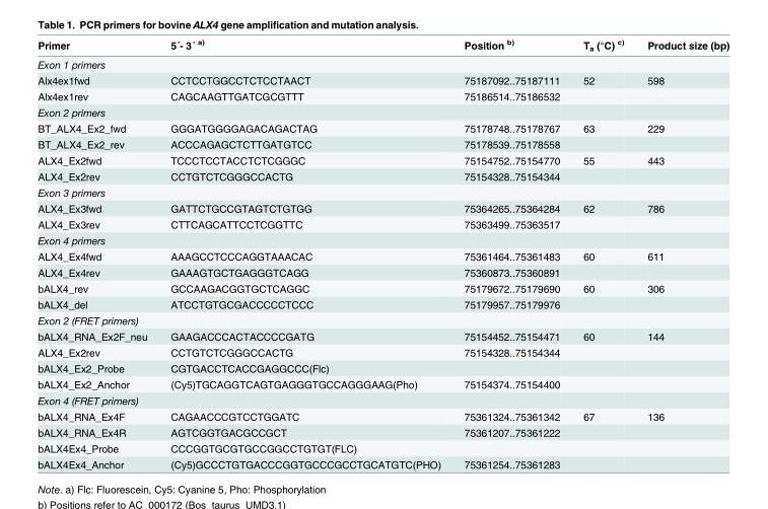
<table><thead><tr><td>Primer</td><td>5´- 3´ <sup>a)</sup></td><td>Position <sup>b)</sup></td><td>T<sub>a</sub> (°C) <sup>c)</sup></td><td>Product size (bp)</td></tr></thead><tbody><tr><td colspan="5">Exon 1 primers</td></tr><tr><td>Alx4ex1fwd</td><td>CCTCCTGGCCTCTCCTAACT</td><td>75187092..75187111</td><td>52</td><td>598</td></tr><tr><td>Alx4ex1rev</td><td>CAGCAAGTTGATCGCGTTT</td><td>75186514..75186532</td><td></td><td></td></tr><tr><td colspan="5">Exon 2 primers</td></tr><tr><td>BT_ALX4_Ex2_fwd</td><td>GGGATGGGGAGACAGACTAG</td><td>75178748..75178767</td><td>63</td><td>229</td></tr><tr><td>BT_ALX4_Ex2_rev</td><td>ACCCAGAGCTCTTGATGTCC</td><td>75178539..75178558</td><td></td><td></td></tr><tr><td>ALX4_Ex2fwd</td><td>TCCCTCCTACCTCTCGGGC</td><td>75154752..75154770</td><td>55</td><td>443</td></tr><tr><td>ALX4_Ex2rev</td><td>CCTGTCTCGGGCCACTG</td><td>75154328..75154344</td><td></td><td></td></tr><tr><td colspan="5">Exon 3 primers</td></tr><tr><td>ALX4_Ex3fwd</td><td>GATTCTGCCGTAGTCTGTGG</td><td>75364265..75364284</td><td>62</td><td>786</td></tr><tr><td>ALX4_Ex3rev</td><td>CTTCAGCATTCCTCGGTTC</td><td>75363499..75363517</td><td></td><td></td></tr><tr><td colspan="5">Exon 4 primers</td></tr><tr><td>ALX4_Ex4fwd</td><td>AAAGCCTCCCAGGTAAACAC</td><td>75361464..75361483</td><td>60</td><td>611</td></tr><tr><td>ALX4_Ex4rev</td><td>GAAAGTGCTGAGGGTCAGG</td><td>75360873..75360891</td><td></td><td></td></tr><tr><td>bALX4_rev</td><td>GCCAAGACGGTGCTCAGGC</td><td>75179672..75179690</td><td>60</td><td>306</td></tr><tr><td>bALX4_del</td><td>ATCCTGTGCGACCCCCTCCC</td><td>75179957..75179976</td><td></td><td></td></tr><tr><td colspan="5">Exon 2 (FRET primers)</td></tr><tr><td>bALX4_RNA_Ex2F_neu</td><td>GAAGACCCACTACCCCGATG</td><td>75154452..75154471</td><td>60</td><td>144</td></tr><tr><td>ALX4_Ex2rev</td><td>CCTGTCTCGGGCCACTG</td><td>75154328..75154344</td><td></td><td></td></tr><tr><td>bALX4_Ex2_Probe</td><td>CGTGACCTCACCGAGGCCC(Flc)</td><td></td><td></td><td></td></tr><tr><td>bALX4_Ex2_Anchor</td><td>(Cy5)TGCAGGTCAGTGAGGGTGCCAGGGAAG(Pho)</td><td>75154374..75154400</td><td></td><td></td></tr><tr><td colspan="5">Exon 4 (FRET primers)</td></tr><tr><td>bALX4_RNA_Ex4F</td><td>CAGAACCCGTCCTGGATC</td><td>75361324..75361342</td><td>67</td><td>136</td></tr><tr><td>bALX4_RNA_Ex4R</td><td>AGTCGGTGACGCCGCT</td><td>75361207..75361222</td><td></td><td></td></tr><tr><td>bALX4Ex4_Probe</td><td>CCCGGTGCGTGCCGGCCTGTGT(FLC)</td><td></td><td></td><td></td></tr><tr><td>bALX4Ex4_Anchor</td><td>(Cy5)GCCCTGTGACCCGGTGCCCGCCTGCATGTC(PHO)</td><td>75361254..75361283</td><td></td><td></td></tr></tbody></table>